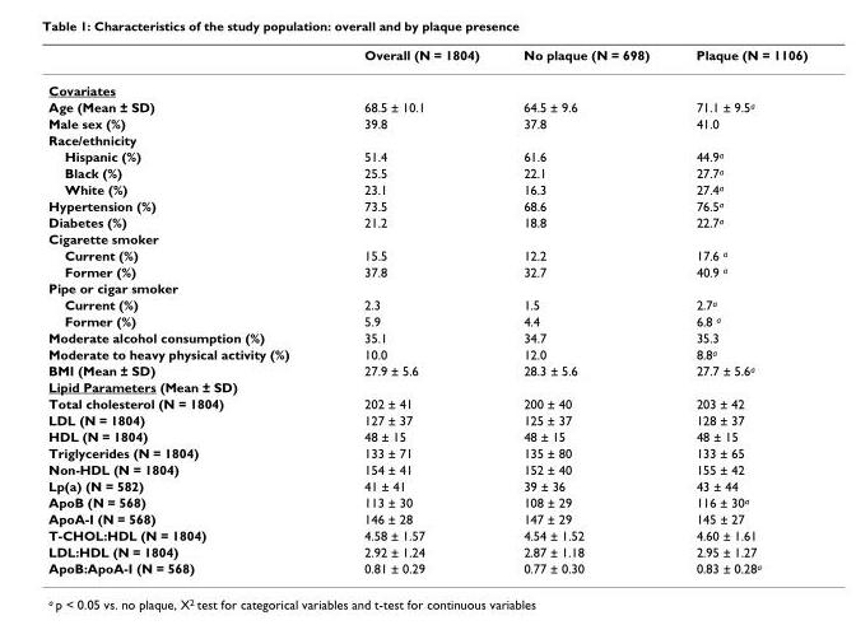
<table><thead><tr><td></td><td>Overall (N = 1804)</td><td>No plaque (N = 698)</td><td>Plaque (N = 1106)</td></tr></thead><tbody><tr><td colspan="4">Covariates</td></tr><tr><td>Age (Mean ± SD)</td><td>68.5 ± 10.1</td><td>64.5 ± 9.6</td><td>71.1 ± 9.5<sup>a</sup></td></tr><tr><td>Male sex (%)</td><td>39.8</td><td>37.8</td><td>41.0</td></tr><tr><td colspan="4">Race/ethnicity</td></tr><tr><td>Hispanic (%)</td><td>51.4</td><td>61.6</td><td>44.9<sup>a</sup></td></tr><tr><td>Black (%)</td><td>25.5</td><td>22.1</td><td>27.7<sup>a</sup></td></tr><tr><td>White (%)</td><td>23.1</td><td>16.3</td><td>27.4<sup>a</sup></td></tr><tr><td>Hypertension (%)</td><td>73.5</td><td>68.6</td><td>76.5<sup>a</sup></td></tr><tr><td>Diabetes (%)</td><td>21.2</td><td>18.8</td><td>22.7<sup>a</sup></td></tr><tr><td colspan="4">Cigarette smoker</td></tr><tr><td>Current (%)</td><td>15.5</td><td>12.2</td><td>17.6 <sup>a</sup></td></tr><tr><td>Former (%)</td><td>37.8</td><td>32.7</td><td>40.9 <sup>a</sup></td></tr><tr><td colspan="4">Pipe or cigar smoker</td></tr><tr><td>Current (%)</td><td>2.3</td><td>1.5</td><td>2.7<sup>a</sup></td></tr><tr><td>Former (%)</td><td>5.9</td><td>4.4</td><td>6.8 <sup>a</sup></td></tr><tr><td>Moderate alcohol consumption (%)</td><td>35.1</td><td>34.7</td><td>35.3</td></tr><tr><td>Moderate to heavy physical activity (%)</td><td>10.0</td><td>12.0</td><td>8.8<sup>a</sup></td></tr><tr><td>BMI (Mean ± SD)</td><td>27.9 ± 5.6</td><td>28.3 ± 5.6</td><td>27.7 ± 5.6<sup>a</sup></td></tr><tr><td colspan="4">Lipid Parameters (Mean ± SD)</td></tr><tr><td>Total cholesterol (N = 1804)</td><td>202 ± 41</td><td>200 ± 40</td><td>203 ± 42</td></tr><tr><td>LDL (N = 1804)</td><td>127 ± 37</td><td>125 ± 37</td><td>128 ± 37</td></tr><tr><td>HDL (N = 1804)</td><td>48 ± 15</td><td>48 ± 15</td><td>48 ± 15</td></tr><tr><td>Triglycerides (N = 1804)</td><td>133 ± 71</td><td>135 ± 80</td><td>133 ± 65</td></tr><tr><td>Non-HDL (N = 1804)</td><td>154 ± 41</td><td>152 ± 40</td><td>155 ± 42</td></tr><tr><td>Lp(a) (N = 582)</td><td>41 ± 41</td><td>39 ± 36</td><td>43 ± 44</td></tr><tr><td>ApoB (N = 568)</td><td>113 ± 30</td><td>108 ± 29</td><td>116 ± 30<sup>a</sup></td></tr><tr><td>ApoA-I (N = 568)</td><td>146 ± 28</td><td>147 ± 29</td><td>145 ± 27</td></tr><tr><td>T-CHOL:HDL (N = 1804)</td><td>4.58 ± 1.57</td><td>4.54 ± 1.52</td><td>4.60 ± 1.61</td></tr><tr><td>LDL:HDL (N = 1804)</td><td>2.92 ± 1.24</td><td>2.87 ± 1.18</td><td>2.95 ± 1.27</td></tr><tr><td>ApoB:ApoA-I (N = 568)</td><td>0.81 ± 0.29</td><td>0.77 ± 0.30</td><td>0.83 ± 0.28<sup>a</sup></td></tr></tbody></table>